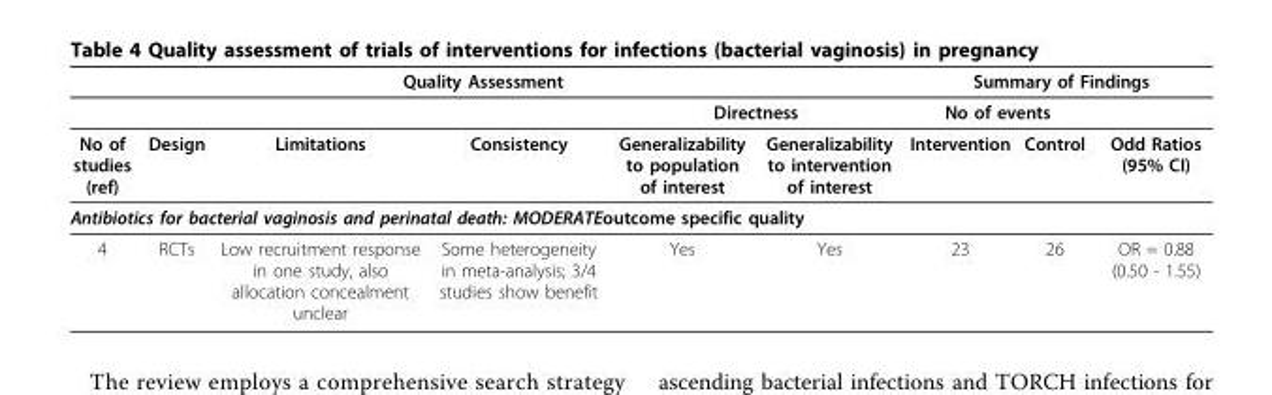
<table><thead><tr><td colspan="6">Quality Assessment</td><td colspan="3">Summary of Findings</td></tr><tr><td rowspan="2">No of studies (ref)</td><td rowspan="2">Design</td><td rowspan="2">Limitations</td><td rowspan="2">Consistency</td><td colspan="2">Directness</td><td colspan="2">No of events</td><td rowspan="2">Odd Ratios (95% CI)</td></tr><tr><td>Generalizability to population of interest</td><td>Generalizability to intervention of interest</td><td>Intervention</td><td>Control</td></tr></thead><tbody><tr><td colspan="9">Antibiotics for bacterial vaginosis and perinatal death: MODERATEoutcome specific quality</td></tr><tr><td>4</td><td>RCTs</td><td>Low recruitment response in one study, also allocation concealment unclear</td><td>Some heterogeneity in meta-analysis; 3/4 studies show benefit</td><td>Yes</td><td>Yes</td><td>23</td><td>26</td><td>OR = 0.88 (0.50 - 1.55)</td></tr></tbody></table>